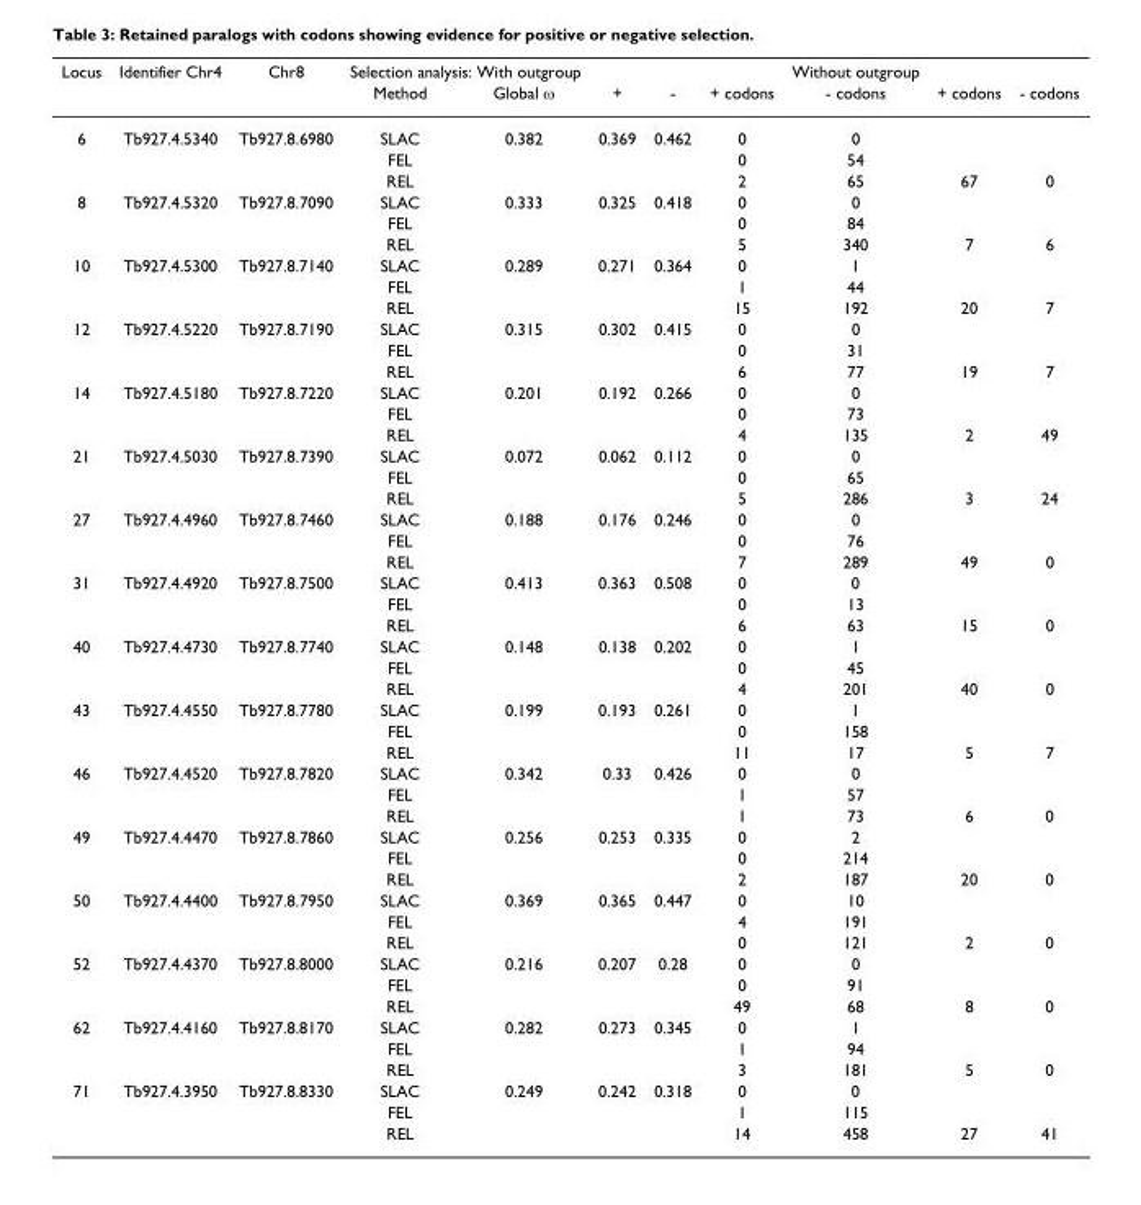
<table><thead><tr><td rowspan="2">Locus</td><td rowspan="2">Identifier Chr4</td><td rowspan="2">Chr8</td><td colspan="2">Selection analysis: With outgroup</td><td rowspan="2">+</td><td rowspan="2">-</td><td rowspan="2">+ codons</td><td rowspan="2">Without outgroup - codons</td><td rowspan="2">+ codons</td><td rowspan="2">- codons</td></tr><tr><td>Method</td><td>Global ω</td></tr></thead><tbody><tr><td rowspan="3">6</td><td>Tb927.4.5340</td><td>Tb927.8.6980</td><td>SLAC</td><td>0.382</td><td>0.369</td><td>0.462</td><td>0</td><td>0</td><td></td><td></td></tr><tr><td></td><td></td><td>FEL</td><td></td><td></td><td></td><td>0</td><td>54</td><td></td><td></td></tr><tr><td></td><td></td><td>REL</td><td></td><td></td><td></td><td>2</td><td>65</td><td>67</td><td>0</td></tr><tr><td rowspan="3">8</td><td>Tb927.4.5320</td><td>Tb927.8.7090</td><td>SLAC</td><td>0.333</td><td>0.325</td><td>0.418</td><td>0</td><td>0</td><td></td><td></td></tr><tr><td></td><td></td><td>FEL</td><td></td><td></td><td></td><td>0</td><td>84</td><td></td><td></td></tr><tr><td></td><td></td><td>REL</td><td></td><td></td><td></td><td>5</td><td>340</td><td>7</td><td>6</td></tr><tr><td rowspan="3">10</td><td>Tb927.4.5300</td><td>Tb927.8.7140</td><td>SLAC</td><td>0.289</td><td>0.271</td><td>0.364</td><td>0</td><td>1</td><td></td><td></td></tr><tr><td></td><td></td><td>FEL</td><td></td><td></td><td></td><td>1</td><td>44</td><td></td><td></td></tr><tr><td></td><td></td><td>REL</td><td></td><td></td><td></td><td>15</td><td>192</td><td>20</td><td>7</td></tr><tr><td rowspan="3">12</td><td>Tb927.4.5220</td><td>Tb927.8.7190</td><td>SLAC</td><td>0.315</td><td>0.302</td><td>0.415</td><td>0</td><td>0</td><td></td><td></td></tr><tr><td></td><td></td><td>FEL</td><td></td><td></td><td></td><td>0</td><td>31</td><td></td><td></td></tr><tr><td></td><td></td><td>REL</td><td></td><td></td><td></td><td>6</td><td>77</td><td>19</td><td>7</td></tr><tr><td rowspan="3">14</td><td>Tb927.4.5180</td><td>Tb927.8.7220</td><td>SLAC</td><td>0.201</td><td>0.192</td><td>0.266</td><td>0</td><td>0</td><td></td><td></td></tr><tr><td></td><td></td><td>FEL</td><td></td><td></td><td></td><td>0</td><td>73</td><td></td><td></td></tr><tr><td></td><td></td><td>REL</td><td></td><td></td><td></td><td>4</td><td>135</td><td>2</td><td>49</td></tr><tr><td rowspan="3">21</td><td>Tb927.4.5030</td><td>Tb927.8.7390</td><td>SLAC</td><td>0.072</td><td>0.062</td><td>0.112</td><td>0</td><td>0</td><td></td><td></td></tr><tr><td></td><td></td><td>FEL</td><td></td><td></td><td></td><td>0</td><td>65</td><td></td><td></td></tr><tr><td></td><td></td><td>REL</td><td></td><td></td><td></td><td>5</td><td>286</td><td>3</td><td>24</td></tr><tr><td rowspan="3">27</td><td>Tb927.4.4960</td><td>Tb927.8.7460</td><td>SLAC</td><td>0.188</td><td>0.176</td><td>0.246</td><td>0</td><td>0</td><td></td><td></td></tr><tr><td></td><td></td><td>FEL</td><td></td><td></td><td></td><td>0</td><td>76</td><td></td><td></td></tr><tr><td></td><td></td><td>REL</td><td></td><td></td><td></td><td>7</td><td>289</td><td>49</td><td>0</td></tr><tr><td rowspan="3">31</td><td>Tb927.4.4920</td><td>Tb927.8.7500</td><td>SLAC</td><td>0.413</td><td>0.363</td><td>0.508</td><td>0</td><td>0</td><td></td><td></td></tr><tr><td></td><td></td><td>FEL</td><td></td><td></td><td></td><td>0</td><td>13</td><td></td><td></td></tr><tr><td></td><td></td><td>REL</td><td></td><td></td><td></td><td>6</td><td>63</td><td>15</td><td>0</td></tr><tr><td rowspan="3">40</td><td>Tb927.4.4730</td><td>Tb927.8.7740</td><td>SLAC</td><td>0.148</td><td>0.138</td><td>0.202</td><td>0</td><td>1</td><td></td><td></td></tr><tr><td></td><td></td><td>FEL</td><td></td><td></td><td></td><td>0</td><td>45</td><td></td><td></td></tr><tr><td></td><td></td><td>REL</td><td></td><td></td><td></td><td>4</td><td>201</td><td>40</td><td>0</td></tr><tr><td rowspan="3">43</td><td>Tb927.4.4550</td><td>Tb927.8.7780</td><td>SLAC</td><td>0.199</td><td>0.193</td><td>0.261</td><td>0</td><td>1</td><td></td><td></td></tr><tr><td></td><td></td><td>FEL</td><td></td><td></td><td></td><td>0</td><td>158</td><td></td><td></td></tr><tr><td></td><td></td><td>REL</td><td></td><td></td><td></td><td>11</td><td>17</td><td>5</td><td>7</td></tr><tr><td rowspan="3">46</td><td>Tb927.4.4520</td><td>Tb927.8.7820</td><td>SLAC</td><td>0.342</td><td>0.33</td><td>0.426</td><td>0</td><td>0</td><td></td><td></td></tr><tr><td></td><td></td><td>FEL</td><td></td><td></td><td></td><td>1</td><td>57</td><td></td><td></td></tr><tr><td></td><td></td><td>REL</td><td></td><td></td><td></td><td>1</td><td>73</td><td>6</td><td>0</td></tr><tr><td rowspan="3">49</td><td>Tb927.4.4470</td><td>Tb927.8.7860</td><td>SLAC</td><td>0.256</td><td>0.253</td><td>0.335</td><td>0</td><td>2</td><td></td><td></td></tr><tr><td></td><td></td><td>FEL</td><td></td><td></td><td></td><td>0</td><td>214</td><td></td><td></td></tr><tr><td></td><td></td><td>REL</td><td></td><td></td><td></td><td>2</td><td>187</td><td>20</td><td>0</td></tr><tr><td rowspan="3">50</td><td>Tb927.4.4400</td><td>Tb927.8.7950</td><td>SLAC</td><td>0.369</td><td>0.365</td><td>0.447</td><td>0</td><td>10</td><td></td><td></td></tr><tr><td></td><td></td><td>FEL</td><td></td><td></td><td></td><td>4</td><td>191</td><td></td><td></td></tr><tr><td></td><td></td><td>REL</td><td></td><td></td><td></td><td>0</td><td>121</td><td>2</td><td>0</td></tr><tr><td rowspan="3">52</td><td>Tb927.4.4370</td><td>Tb927.8.8000</td><td>SLAC</td><td>0.216</td><td>0.207</td><td>0.28</td><td>0</td><td>0</td><td></td><td></td></tr><tr><td></td><td></td><td>FEL</td><td></td><td></td><td></td><td>0</td><td>91</td><td></td><td></td></tr><tr><td></td><td></td><td>REL</td><td></td><td></td><td></td><td>49</td><td>68</td><td>8</td><td>0</td></tr><tr><td rowspan="3">62</td><td>Tb927.4.4160</td><td>Tb927.8.8170</td><td>SLAC</td><td>0.282</td><td>0.273</td><td>0.345</td><td>0</td><td>1</td><td></td><td></td></tr><tr><td></td><td></td><td>FEL</td><td></td><td></td><td></td><td>1</td><td>94</td><td></td><td></td></tr><tr><td></td><td></td><td>REL</td><td></td><td></td><td></td><td>3</td><td>181</td><td>5</td><td>0</td></tr><tr><td rowspan="3">71</td><td>Tb927.4.3950</td><td>Tb927.8.8330</td><td>SLAC</td><td>0.249</td><td>0.242</td><td>0.318</td><td>0</td><td>0</td><td></td><td></td></tr><tr><td></td><td></td><td>FEL</td><td></td><td></td><td></td><td>1</td><td>115</td><td></td><td></td></tr><tr><td></td><td></td><td>REL</td><td></td><td></td><td></td><td>14</td><td>458</td><td>27</td><td>41</td></tr></tbody></table>